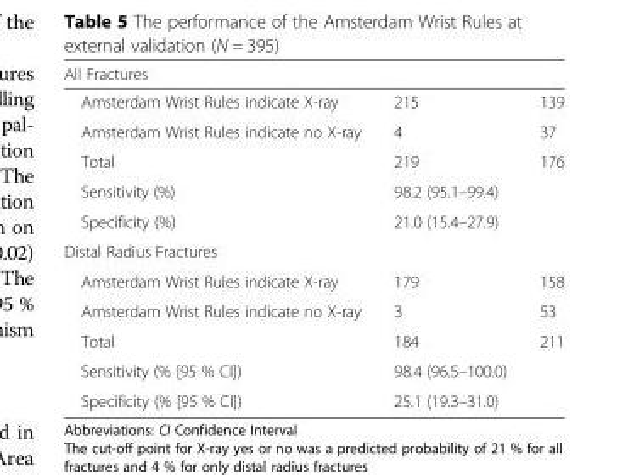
<table><thead><tr><td>All Fractures</td><td></td><td></td></tr></thead><tbody><tr><td>Amsterdam Wrist Rules indicate X-ray</td><td>215</td><td>139</td></tr><tr><td>Amsterdam Wrist Rules indicate no X-ray</td><td>4</td><td>37</td></tr><tr><td>Total</td><td>219</td><td>176</td></tr><tr><td>Sensitivity (%)</td><td colspan="2">98.2 (95.1–99.4)</td></tr><tr><td>Specificity (%)</td><td colspan="2">21.0 (15.4–27.9)</td></tr><tr><td colspan="3">Distal Radius Fractures</td></tr><tr><td>Amsterdam Wrist Rules indicate X-ray</td><td>179</td><td>158</td></tr><tr><td>Amsterdam Wrist Rules indicate no X-ray</td><td>3</td><td>53</td></tr><tr><td>Total</td><td>184</td><td>211</td></tr><tr><td>Sensitivity (% [95 % CI])</td><td>98.4 (96.5–100.0)</td><td></td></tr><tr><td>Specificity (% [95 % CI])</td><td>25.1 (19.3–31.0)</td><td></td></tr></tbody></table>